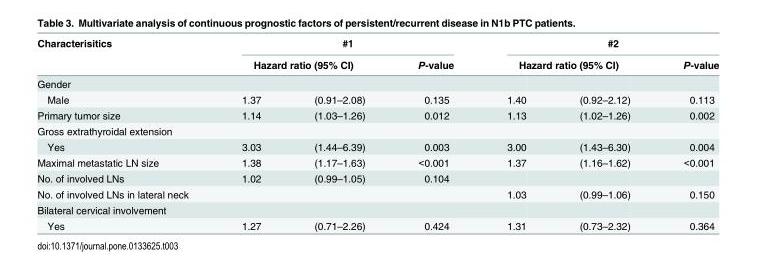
<table><thead><tr><td rowspan="3">Characterisitics Gender</td><td colspan="3">#1</td><td colspan="3">#2</td></tr><tr><td colspan="2">Hazard ratio (95% CI)</td><td rowspan="2">P-value</td><td colspan="2">Hazard ratio (95% CI)</td><td rowspan="2">P-value</td></tr><tr><td></td><td></td><td></td><td></td></tr></thead><tbody><tr><td>Male</td><td>1.37</td><td>(0.91–2.08)</td><td>0.135</td><td>1.40</td><td>(0.92–2.12)</td><td>0.113</td></tr><tr><td>Primary tumor size</td><td>1.14</td><td>(1.03–1.26)</td><td>0.012</td><td>1.13</td><td>(1.02–1.26)</td><td>0.002</td></tr><tr><td colspan="7">Gross extrathyroidal extension</td></tr><tr><td>Yes</td><td>3.03</td><td>(1.44–6.39)</td><td>0.003</td><td>3.00</td><td>(1.43–6.30)</td><td>0.004</td></tr><tr><td>Maximal metastatic LN size</td><td>1.38</td><td>(1.17–1.63)</td><td>&lt;0.001</td><td>1.37</td><td>(1.16–1.62)</td><td>&lt;0.001</td></tr><tr><td>No. of involved LNs</td><td>1.02</td><td>(0.99–1.05)</td><td>0.104</td><td></td><td></td><td></td></tr><tr><td>No. of involved LNs in lateral neck</td><td></td><td></td><td></td><td>1.03</td><td>(0.99–1.06)</td><td>0.150</td></tr><tr><td colspan="7">Bilateral cervical involvement</td></tr><tr><td>Yes</td><td>1.27</td><td>(0.71–2.26)</td><td>0.424</td><td>1.31</td><td>(0.73–2.32)</td><td>0.364</td></tr></tbody></table>